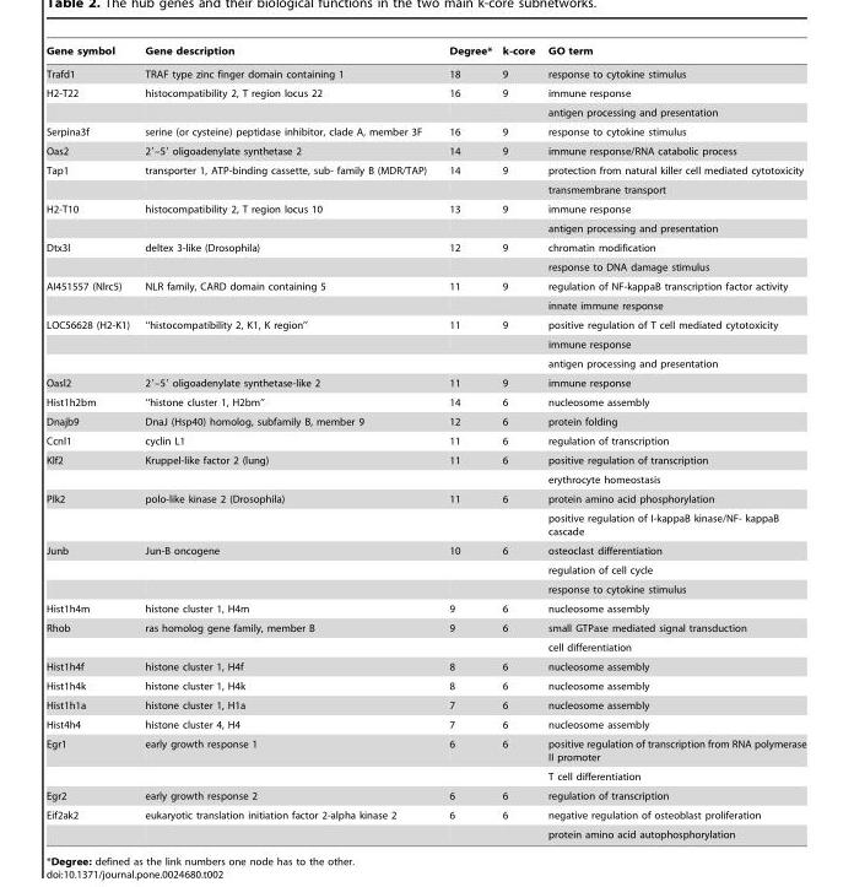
<table><thead><tr><td>Gene symbol</td><td>Gene description</td><td>Degree*</td><td>k-core</td><td>GO term</td></tr></thead><tbody><tr><td>Trafd1</td><td>TRAF type zinc finger domain containing 1</td><td>18</td><td>9</td><td>response to cytokine stimulus</td></tr><tr><td rowspan="2">H2-T22</td><td>histocompatibility 2, T region locus 22</td><td>16</td><td>9</td><td>immune response</td></tr><tr><td></td><td></td><td></td><td>antigen processing and presentation</td></tr><tr><td>Serpina3f</td><td>serine (or cysteine) peptidase inhibitor, clade A, member 3F</td><td>16</td><td>9</td><td>response to cytokine stimulus</td></tr><tr><td>Oas2</td><td>2′–5′ oligoadenylate synthetase 2</td><td>14</td><td>9</td><td>immune response/RNA catabolic process</td></tr><tr><td rowspan="2">Tap1</td><td>transporter 1, ATP-binding cassette, sub- family B (MDR/TAP)</td><td>14</td><td>9</td><td>protection from natural killer cell mediated cytotoxicity</td></tr><tr><td></td><td></td><td></td><td>transmembrane transport</td></tr><tr><td rowspan="2">H2-T10</td><td>histocompatibility 2, T region locus 10</td><td>13</td><td>9</td><td>immune response</td></tr><tr><td></td><td></td><td></td><td>antigen processing and presentation</td></tr><tr><td rowspan="2">Dtx3l</td><td>deltex 3-like (Drosophila)</td><td>12</td><td>9</td><td>chromatin modification</td></tr><tr><td></td><td></td><td></td><td>response to DNA damage stimulus</td></tr><tr><td rowspan="2">AI451557 (Nlrc5)</td><td>NLR family, CARD domain containing 5</td><td>11</td><td>9</td><td>regulation of NF-kappaB transcription factor activity</td></tr><tr><td></td><td></td><td></td><td>innate immune response</td></tr><tr><td rowspan="3">LOC56628 (H2-K1)</td><td>‘‘histocompatibility 2, K1, K region’’</td><td>11</td><td>9</td><td>positive regulation of T cell mediated cytotoxicity</td></tr><tr><td></td><td></td><td></td><td>immune response</td></tr><tr><td></td><td></td><td></td><td>antigen processing and presentation</td></tr><tr><td>Oasl2</td><td>2′–5′ oligoadenylate synthetase-like 2</td><td>11</td><td>9</td><td>immune response</td></tr><tr><td>Hist1h2bm</td><td>‘‘histone cluster 1, H2bm’’</td><td>14</td><td>6</td><td>nucleosome assembly</td></tr><tr><td>Dnajb9</td><td>DnaJ (Hsp40) homolog, subfamily B, member 9</td><td>12</td><td>6</td><td>protein folding</td></tr><tr><td>Ccnl1</td><td>cyclin L1</td><td>11</td><td>6</td><td>regulation of transcription</td></tr><tr><td rowspan="2">Klf2</td><td>Kruppel-like factor 2 (lung)</td><td>11</td><td>6</td><td>positive regulation of transcription</td></tr><tr><td></td><td></td><td></td><td>erythrocyte homeostasis</td></tr><tr><td rowspan="2">Plk2</td><td>polo-like kinase 2 (Drosophila)</td><td>11</td><td>6</td><td>protein amino acid phosphorylation</td></tr><tr><td></td><td></td><td></td><td>positive regulation of I-kappaB kinase/NF- kappaB cascade</td></tr><tr><td rowspan="3">Junb</td><td>Jun-B oncogene</td><td>10</td><td>6</td><td>osteoclast differentiation</td></tr><tr><td></td><td></td><td></td><td>regulation of cell cycle</td></tr><tr><td></td><td></td><td></td><td>response to cytokine stimulus</td></tr><tr><td>Hist1h4m</td><td>histone cluster 1, H4m</td><td>9</td><td>6</td><td>nucleosome assembly</td></tr><tr><td rowspan="2">Rhob</td><td>ras homolog gene family, member B</td><td>9</td><td>6</td><td>small GTPase mediated signal transduction</td></tr><tr><td></td><td></td><td></td><td>cell differentiation</td></tr><tr><td>Hist1h4f</td><td>histone cluster 1, H4f</td><td>8</td><td>6</td><td>nucleosome assembly</td></tr><tr><td>Hist1h4k</td><td>histone cluster 1, H4k</td><td>8</td><td>6</td><td>nucleosome assembly</td></tr><tr><td>Hist1h1a</td><td>histone cluster 1, H1a</td><td>7</td><td>6</td><td>nucleosome assembly</td></tr><tr><td>Hist4h4</td><td>histone cluster 4, H4</td><td>7</td><td>6</td><td>nucleosome assembly</td></tr><tr><td rowspan="2">Egr1</td><td>early growth response 1</td><td>6</td><td>6</td><td>positive regulation of transcription from RNA polymerase II promoter</td></tr><tr><td></td><td></td><td></td><td>T cell differentiation</td></tr><tr><td>Egr2</td><td>early growth response 2</td><td>6</td><td>6</td><td>regulation of transcription</td></tr><tr><td rowspan="2">Eif2ak2</td><td>eukaryotic translation initiation factor 2-alpha kinase 2</td><td>6</td><td>6</td><td>negative regulation of osteoblast proliferation</td></tr><tr><td></td><td></td><td></td><td>protein amino acid autophosphorylation</td></tr></tbody></table>